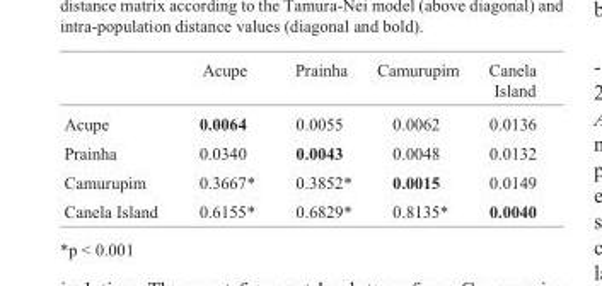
<table><thead><tr><td></td><td>Acupe</td><td>Prainha</td><td>Camurupim</td><td>Canela Island</td></tr></thead><tbody><tr><td>Acupe</td><td>0.0064</td><td>0.0055</td><td>0.0062</td><td>0.0136</td></tr><tr><td>Prainha</td><td>0.0340</td><td>0.0043</td><td>0.0048</td><td>0.0132</td></tr><tr><td>Camurupim</td><td>0.3667*</td><td>0.3852*</td><td>0.0015</td><td>0.0149</td></tr><tr><td>Canela Island</td><td>0.6155*</td><td>0.6829*</td><td>0.8135*</td><td>0.0040</td></tr></tbody></table>